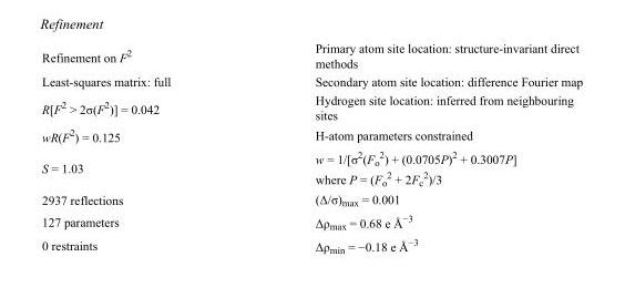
<table><tbody><tr><td>Refinement on F<sup>2</sup></td><td>Primary atom site location: structure-invariant direct methods</td></tr><tr><td>Least-squares matrix: full</td><td>Secondary atom site location: difference Fourier map</td></tr><tr><td>R[F<sup>2</sup> &gt; 2σ(F<sup>2</sup>)] = 0.042</td><td>Hydrogen site location: inferred from neighbouring sites</td></tr><tr><td>wR(F<sup>2</sup>) = 0.125</td><td>H-atom parameters constrained</td></tr><tr><td>S = 1.03</td><td>w = 1/[σ<sup>2</sup>(F<sub>o</sub> <sup>2</sup>) + (0.0705P)<sup>2</sup> + 0.3007P] where P = (F<sub>o</sub> <sup>2</sup> + 2F<sub>c</sub> <sup>2</sup>)/3</td></tr><tr><td>2937 reflections</td><td>(Δ/σ)<sub>max</sub> = 0.001</td></tr><tr><td>127 parameters</td><td>Δρ<sub>max</sub> = 0.68 e Å<sup>−3</sup></td></tr><tr><td>0 restraints</td><td>Δρ<sub>min</sub> = −0.18 e Å<sup>−3</sup></td></tr></tbody></table>